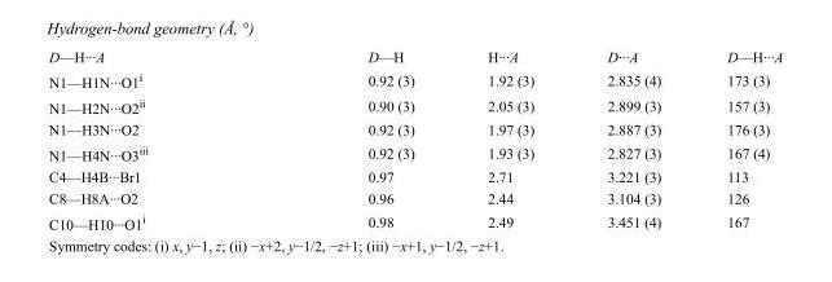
<table><tbody><tr><td>D—H···A</td><td>D—H</td><td>H···A</td><td>D···A</td><td>D—H···A</td></tr><tr><td>N1—H1N···O1<sup>i</sup></td><td>0.92 (3)</td><td>1.92 (3)</td><td>2.835 (4)</td><td>173 (3)</td></tr><tr><td>N1—H2N···O2<sup>ii</sup></td><td>0.90 (3)</td><td>2.05 (3)</td><td>2.899 (3)</td><td>157 (3)</td></tr><tr><td>N1—H3N···O2</td><td>0.92 (3)</td><td>1.97 (3)</td><td>2.887 (3)</td><td>176 (3)</td></tr><tr><td>N1—H4N···O3<sup>iii</sup></td><td>0.92 (3)</td><td>1.93 (3)</td><td>2.827 (3)</td><td>167 (4)</td></tr><tr><td>C4—H4B···Br1</td><td>0.97</td><td>2.71</td><td>3.221 (3)</td><td>113</td></tr><tr><td>C8—H8A···O2</td><td>0.96</td><td>2.44</td><td>3.104 (3)</td><td>126</td></tr><tr><td>C10—H10···O1<sup>i</sup></td><td>0.98</td><td>2.49</td><td>3.451 (4)</td><td>167</td></tr></tbody></table>